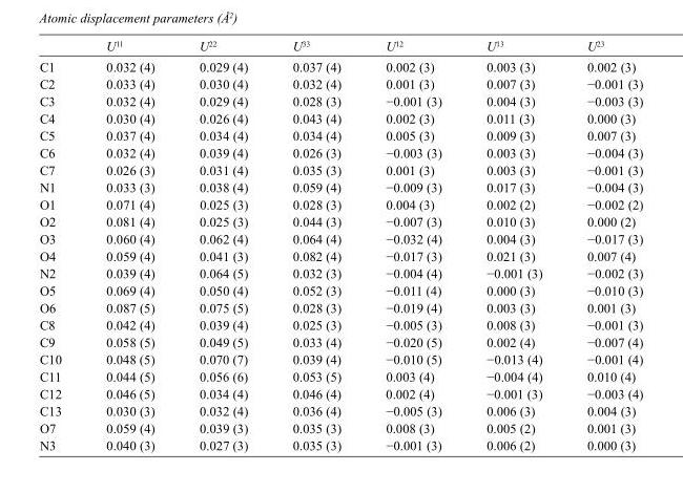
<table><thead><tr><td></td><td>U<sup>11</sup></td><td>U<sup>22</sup></td><td>U<sup>33</sup></td><td>U<sup>12</sup></td><td>U<sup>13</sup></td><td>U<sup>23</sup></td></tr></thead><tbody><tr><td>C1</td><td>0.032 (4)</td><td>0.029 (4)</td><td>0.037 (4)</td><td>0.002 (3)</td><td>0.003 (3)</td><td>0.002 (3)</td></tr><tr><td>C2</td><td>0.033 (4)</td><td>0.030 (4)</td><td>0.032 (4)</td><td>0.001 (3)</td><td>0.007 (3)</td><td>−0.001 (3)</td></tr><tr><td>C3</td><td>0.032 (4)</td><td>0.029 (4)</td><td>0.028 (3)</td><td>−0.001 (3)</td><td>0.004 (3)</td><td>−0.003 (3)</td></tr><tr><td>C4</td><td>0.030 (4)</td><td>0.026 (4)</td><td>0.043 (4)</td><td>0.002 (3)</td><td>0.011 (3)</td><td>0.000 (3)</td></tr><tr><td>C5</td><td>0.037 (4)</td><td>0.034 (4)</td><td>0.034 (4)</td><td>0.005 (3)</td><td>0.009 (3)</td><td>0.007 (3)</td></tr><tr><td>C6</td><td>0.032 (4)</td><td>0.039 (4)</td><td>0.026 (3)</td><td>−0.003 (3)</td><td>0.003 (3)</td><td>−0.004 (3)</td></tr><tr><td>C7</td><td>0.026 (3)</td><td>0.031 (4)</td><td>0.035 (3)</td><td>0.001 (3)</td><td>0.003 (3)</td><td>−0.001 (3)</td></tr><tr><td>N1</td><td>0.033 (3)</td><td>0.038 (4)</td><td>0.059 (4)</td><td>−0.009 (3)</td><td>0.017 (3)</td><td>−0.004 (3)</td></tr><tr><td>O1</td><td>0.071 (4)</td><td>0.025 (3)</td><td>0.028 (3)</td><td>0.004 (3)</td><td>0.002 (2)</td><td>−0.002 (2)</td></tr><tr><td>O2</td><td>0.081 (4)</td><td>0.025 (3)</td><td>0.044 (3)</td><td>−0.007 (3)</td><td>0.010 (3)</td><td>0.000 (2)</td></tr><tr><td>O3</td><td>0.060 (4)</td><td>0.062 (4)</td><td>0.064 (4)</td><td>−0.032 (4)</td><td>0.004 (3)</td><td>−0.017 (3)</td></tr><tr><td>O4</td><td>0.059 (4)</td><td>0.041 (3)</td><td>0.082 (4)</td><td>−0.017 (3)</td><td>0.021 (3)</td><td>0.007 (4)</td></tr><tr><td>N2</td><td>0.039 (4)</td><td>0.064 (5)</td><td>0.032 (3)</td><td>−0.004 (4)</td><td>−0.001 (3)</td><td>−0.002 (3)</td></tr><tr><td>O5</td><td>0.069 (4)</td><td>0.050 (4)</td><td>0.052 (3)</td><td>−0.011 (4)</td><td>0.000 (3)</td><td>−0.010 (3)</td></tr><tr><td>O6</td><td>0.087 (5)</td><td>0.075 (5)</td><td>0.028 (3)</td><td>−0.019 (4)</td><td>0.003 (3)</td><td>0.001 (3)</td></tr><tr><td>C8</td><td>0.042 (4)</td><td>0.039 (4)</td><td>0.025 (3)</td><td>−0.005 (3)</td><td>0.008 (3)</td><td>−0.001 (3)</td></tr><tr><td>C9</td><td>0.058 (5)</td><td>0.049 (5)</td><td>0.033 (4)</td><td>−0.020 (5)</td><td>0.002 (4)</td><td>−0.007 (4)</td></tr><tr><td>C10</td><td>0.048 (5)</td><td>0.070 (7)</td><td>0.039 (4)</td><td>−0.010 (5)</td><td>−0.013 (4)</td><td>−0.001 (4)</td></tr><tr><td>C11</td><td>0.044 (5)</td><td>0.056 (6)</td><td>0.053 (5)</td><td>0.003 (4)</td><td>−0.004 (4)</td><td>0.010 (4)</td></tr><tr><td>C12</td><td>0.046 (5)</td><td>0.034 (4)</td><td>0.046 (4)</td><td>0.002 (4)</td><td>−0.001 (3)</td><td>−0.003 (4)</td></tr><tr><td>C13</td><td>0.030 (3)</td><td>0.032 (4)</td><td>0.036 (4)</td><td>−0.005 (3)</td><td>0.006 (3)</td><td>0.004 (3)</td></tr><tr><td>O7</td><td>0.059 (4)</td><td>0.039 (3)</td><td>0.035 (3)</td><td>0.008 (3)</td><td>0.005 (2)</td><td>0.001 (3)</td></tr><tr><td>N3</td><td>0.040 (3)</td><td>0.027 (3)</td><td>0.035 (3)</td><td>−0.001 (3)</td><td>0.006 (2)</td><td>0.000 (3)</td></tr></tbody></table>